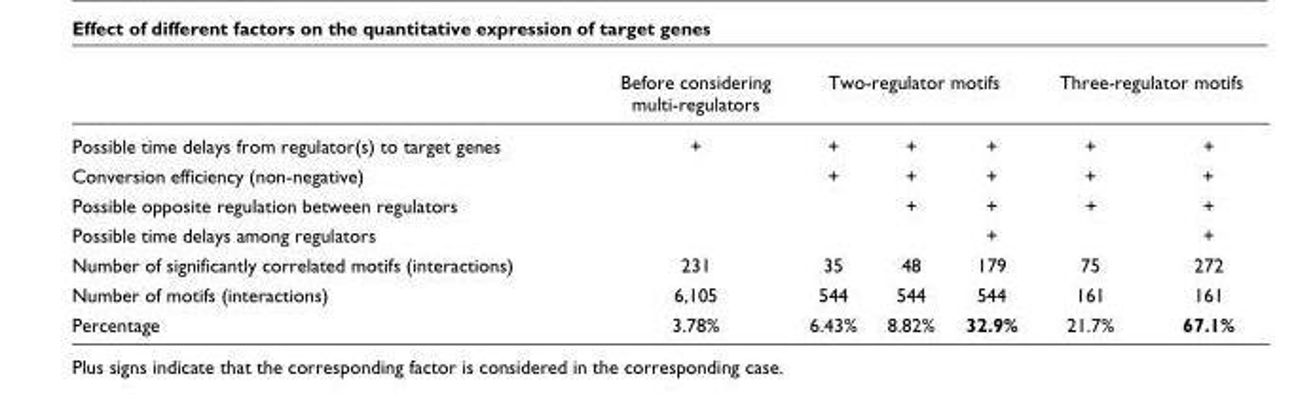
<table><thead><tr><td rowspan="2">Possible time delays from regulator(s) to target genes</td><td rowspan="2">Before considering multi-regulators +</td><td colspan="3">Two-regulator motifs</td><td colspan="2">Three-regulator motifs</td></tr><tr><td>+</td><td>+</td><td>+</td><td>+</td><td>+</td></tr></thead><tbody><tr><td>Conversion efficiency (non-negative)</td><td></td><td>+</td><td>+</td><td>+</td><td>+</td><td>+</td></tr><tr><td>Possible opposite regulation between regulators</td><td></td><td></td><td>+</td><td>+</td><td>+</td><td>+</td></tr><tr><td>Possible time delays among regulators</td><td></td><td></td><td></td><td>+</td><td></td><td>+</td></tr><tr><td>Number of significantly correlated motifs (interactions)</td><td>231</td><td>35</td><td>48</td><td>179</td><td>75</td><td>272</td></tr><tr><td>Number of motifs (interactions)</td><td>6,105</td><td>544</td><td>544</td><td>544</td><td>161</td><td>161</td></tr><tr><td>Percentage</td><td>3.78%</td><td>6.43%</td><td>8.82%</td><td>32.9%</td><td>21.7%</td><td>67.1%</td></tr></tbody></table>